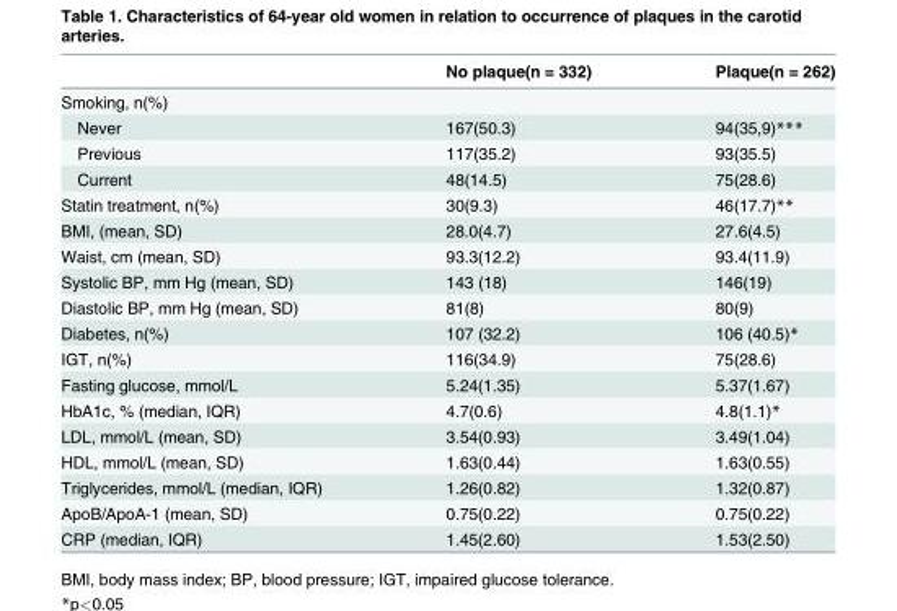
<table><thead><tr><td></td><td>No plaque(n = 332)</td><td>Plaque(n = 262)</td></tr></thead><tbody><tr><td colspan="3">Smoking, n(%)</td></tr><tr><td>Never</td><td>167(50.3)</td><td>94(35,9)***</td></tr><tr><td>Previous</td><td>117(35.2)</td><td>93(35.5)</td></tr><tr><td>Current</td><td>48(14.5)</td><td>75(28.6)</td></tr><tr><td>Statin treatment, n(%)</td><td>30(9.3)</td><td>46(17.7)**</td></tr><tr><td>BMI, (mean, SD)</td><td>28.0(4.7)</td><td>27.6(4.5)</td></tr><tr><td>Waist, cm (mean, SD)</td><td>93.3(12.2)</td><td>93.4(11.9)</td></tr><tr><td>Systolic BP, mm Hg (mean, SD)</td><td>143 (18)</td><td>146(19)</td></tr><tr><td>Diastolic BP, mm Hg (mean, SD)</td><td>81(8)</td><td>80(9)</td></tr><tr><td>Diabetes, n(%)</td><td>107 (32.2)</td><td>106 (40.5)*</td></tr><tr><td>IGT, n(%)</td><td>116(34.9)</td><td>75(28.6)</td></tr><tr><td>Fasting glucose, mmol/L</td><td>5.24(1.35)</td><td>5.37(1.67)</td></tr><tr><td>HbA1c, % (median, IQR)</td><td>4.7(0.6)</td><td>4.8(1.1)*</td></tr><tr><td>LDL, mmol/L (mean, SD)</td><td>3.54(0.93)</td><td>3.49(1.04)</td></tr><tr><td>HDL, mmol/L (mean, SD)</td><td>1.63(0.44)</td><td>1.63(0.55)</td></tr><tr><td>Triglycerides, mmol/L (median, IQR)</td><td>1.26(0.82)</td><td>1.32(0.87)</td></tr><tr><td>ApoB/ApoA-1 (mean, SD)</td><td>0.75(0.22)</td><td>0.75(0.22)</td></tr><tr><td>CRP (median, IQR)</td><td>1.45(2.60)</td><td>1.53(2.50)</td></tr></tbody></table>